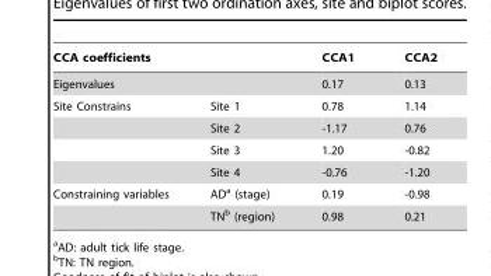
<table><thead><tr><td colspan="2">CCA coefficients</td><td rowspan="2">CCA1 0.17</td><td rowspan="2">CCA2 0.13</td></tr><tr><td>Eigenvalues</td><td></td></tr></thead><tbody><tr><td rowspan="4">Site Constrains</td><td>Site 1</td><td>0.78</td><td>1.14</td></tr><tr><td>Site 2</td><td>-1.17</td><td>0.76</td></tr><tr><td>Site 3</td><td>1.20</td><td>-0.82</td></tr><tr><td>Site 4</td><td>-0.76</td><td>-1.20</td></tr><tr><td rowspan="2">Constraining variables</td><td>AD<sup>a</sup> (stage)</td><td>0.19</td><td>-0.98</td></tr><tr><td>TN<sup>b</sup> (region)</td><td>0.98</td><td>0.21</td></tr></tbody></table>